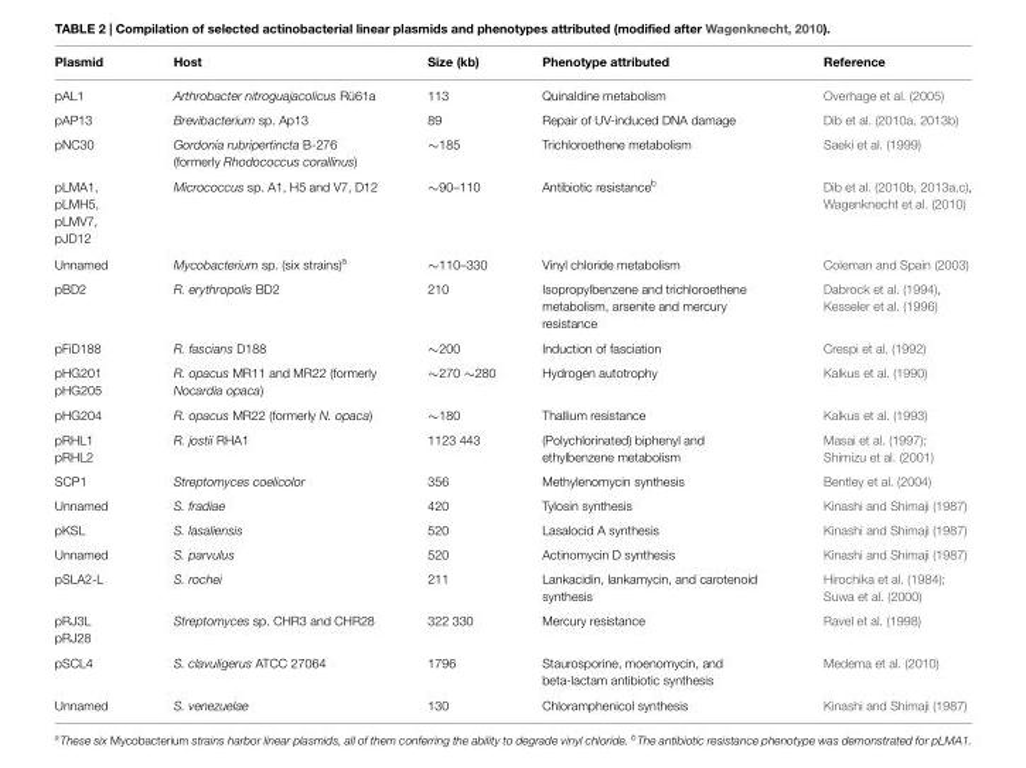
<table><thead><tr><td>Plasmid</td><td>Host</td><td>Size (kb)</td><td>Phenotype attributed</td><td>Reference</td></tr></thead><tbody><tr><td>pAL1</td><td>Arthrobacter nitroguajacolicus Rü61a</td><td>113</td><td>Quinaldine metabolism</td><td>Overhage et al. (2005)</td></tr><tr><td>pAP13</td><td>Brevibacterium sp. Ap13</td><td>89</td><td>Repair of UV-induced DNA damage</td><td>Dib et al. (2010a, 2013b)</td></tr><tr><td>pNC30</td><td>Gordonia rubripertincta B-276 (formerly Rhodococcus corallinus)</td><td>∼185</td><td>Trichloroethene metabolism</td><td>Saeki et al. (1999)</td></tr><tr><td>pLMA1, pLMH5, pLMV7, pJD12</td><td>Micrococcus sp. A1, H5 and V7, D12</td><td>∼90–110</td><td>Antibiotic resistance<sup>b</sup></td><td>Dib et al. (2010b, 2013a,c), Wagenknecht et al. (2010)</td></tr><tr><td>Unnamed</td><td>Mycobacterium sp. (six strains)<sup>a</sup></td><td>∼110–330</td><td>Vinyl chloride metabolism</td><td>Coleman and Spain (2003)</td></tr><tr><td>pBD2</td><td>R. erythropolis BD2</td><td>210</td><td>Isopropylbenzene and trichloroethene metabolism, arsenite and mercury resistance</td><td>Dabrock et al. (1994), Kesseler et al. (1996)</td></tr><tr><td>pFiD188</td><td>R. fascians D188</td><td>∼200</td><td>Induction of fasciation</td><td>Crespi et al. (1992)</td></tr><tr><td>pHG201 pHG205</td><td>R. opacus MR11 and MR22 (formerly Nocardia opaca)</td><td>∼270 ∼280</td><td>Hydrogen autotrophy</td><td>Kalkus et al. (1990)</td></tr><tr><td>pHG204</td><td>R. opacus MR22 (formerly N. opaca)</td><td>∼180</td><td>Thallium resistance</td><td>Kalkus et al. (1993)</td></tr><tr><td>pRHL1 pRHL2</td><td>R. jostii RHA1</td><td>1123 443</td><td>(Polychlorinated) biphenyl and ethylbenzene metabolism</td><td>Masai et al. (1997); Shimizu et al. (2001)</td></tr><tr><td>SCP1</td><td>Streptomyces coelicolor</td><td>356</td><td>Methylenomycin synthesis</td><td>Bentley et al. (2004)</td></tr><tr><td>Unnamed</td><td>S. fradiae</td><td>420</td><td>Tylosin synthesis</td><td>Kinashi and Shimaji (1987)</td></tr><tr><td>pKSL</td><td>S. lasaliensis</td><td>520</td><td>Lasalocid A synthesis</td><td>Kinashi and Shimaji (1987)</td></tr><tr><td>Unnamed</td><td>S. parvulus</td><td>520</td><td>Actinomycin D synthesis</td><td>Kinashi and Shimaji (1987)</td></tr><tr><td>pSLA2-L</td><td>S. rochei</td><td>211</td><td>Lankacidin, lankamycin, and carotenoid synthesis</td><td>Hirochika et al. (1984); Suwa et al. (2000)</td></tr><tr><td>pRJ3L pRJ28</td><td>Streptomyces sp. CHR3 and CHR28</td><td>322 330</td><td>Mercury resistance</td><td>Ravel et al. (1998)</td></tr><tr><td>pSCL4</td><td>S. clavuligerus ATCC 27064</td><td>1796</td><td>Staurosporine, moenomycin, and beta-lactam antibiotic synthesis</td><td>Medema et al. (2010)</td></tr><tr><td>Unnamed</td><td>S. venezuelae</td><td>130</td><td>Chloramphenicol synthesis</td><td>Kinashi and Shimaji (1987)</td></tr></tbody></table>